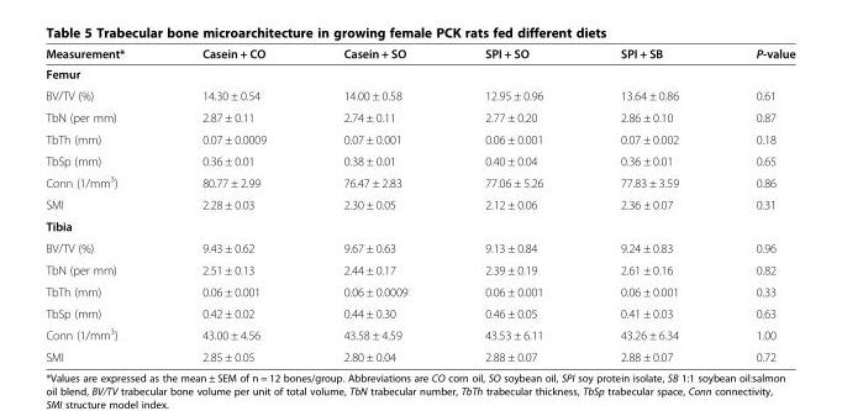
<table><thead><tr><td>Measurement*</td><td>Casein + CO</td><td>Casein + SO</td><td>SPI + SO</td><td>SPI + SB</td><td>P-value</td></tr></thead><tbody><tr><td colspan="6">Femur</td></tr><tr><td>BV/TV (%)</td><td>14.30 ± 0.54</td><td>14.00 ± 0.58</td><td>12.95 ± 0.96</td><td>13.64 ± 0.86</td><td>0.61</td></tr><tr><td>TbN (per mm)</td><td>2.87 ± 0.11</td><td>2.74 ± 0.11</td><td>2.77 ± 0.20</td><td>2.86 ± 0.10</td><td>0.87</td></tr><tr><td>TbTh (mm)</td><td>0.07 ± 0.0009</td><td>0.07 ± 0.001</td><td>0.06 ± 0.001</td><td>0.07 ± 0.002</td><td>0.18</td></tr><tr><td>TbSp (mm)</td><td>0.36 ± 0.01</td><td>0.38 ± 0.01</td><td>0.40 ± 0.04</td><td>0.36 ± 0.01</td><td>0.65</td></tr><tr><td>Conn (1/mm<sup>3</sup>)</td><td>80.77 ± 2.99</td><td>76.47 ± 2.83</td><td>77.06 ± 5.26</td><td>77.83 ± 3.59</td><td>0.86</td></tr><tr><td>SMI</td><td>2.28 ± 0.03</td><td>2.30 ± 0.05</td><td>2.12 ± 0.06</td><td>2.36 ± 0.07</td><td>0.31</td></tr><tr><td colspan="6">Tibia</td></tr><tr><td>BV/TV (%)</td><td>9.43 ± 0.62</td><td>9.67 ± 0.63</td><td>9.13 ± 0.84</td><td>9.24 ± 0.83</td><td>0.96</td></tr><tr><td>TbN (per mm)</td><td>2.51 ± 0.13</td><td>2.44 ± 0.17</td><td>2.39 ± 0.19</td><td>2.61 ± 0.16</td><td>0.82</td></tr><tr><td>TbTh (mm)</td><td>0.06 ± 0.001</td><td>0.06 ± 0.0009</td><td>0.06 ± 0.001</td><td>0.06 ± 0.001</td><td>0.33</td></tr><tr><td>TbSp (mm)</td><td>0.42 ± 0.02</td><td>0.44 ± 0.30</td><td>0.46 ± 0.05</td><td>0.41 ± 0.03</td><td>0.63</td></tr><tr><td>Conn (1/mm<sup>3</sup>)</td><td>43.00 ± 4.56</td><td>43.58 ± 4.59</td><td>43.53 ± 6.11</td><td>43.26 ± 6.34</td><td>1.00</td></tr><tr><td>SMI</td><td>2.85 ± 0.05</td><td>2.80 ± 0.04</td><td>2.88 ± 0.07</td><td>2.88 ± 0.07</td><td>0.72</td></tr></tbody></table>